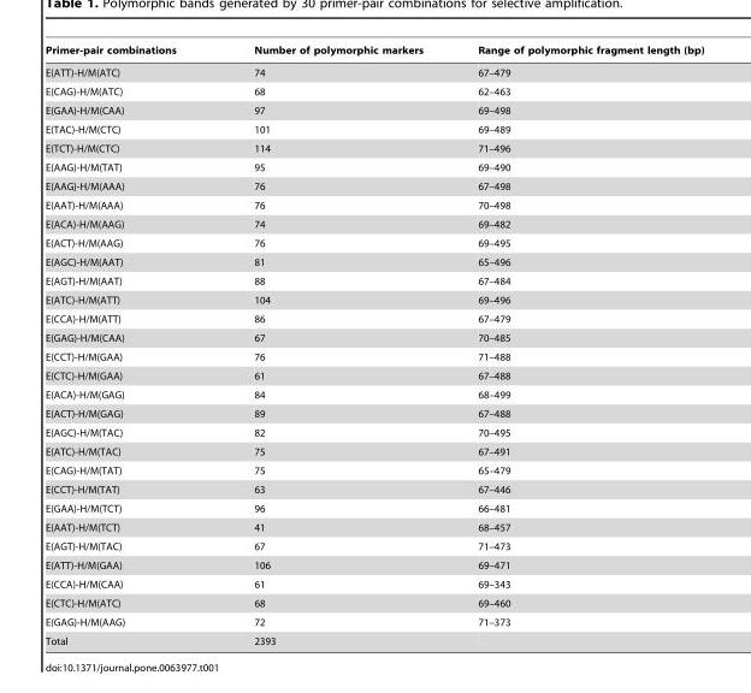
<table><thead><tr><td>Primer-pair combinations</td><td>Number of polymorphic markers</td><td>Range of polymorphic fragment length (bp)</td></tr></thead><tbody><tr><td>E(ATT)-H/M(ATC)</td><td>74</td><td>67–479</td></tr><tr><td>E(CAG)-H/M(ATC)</td><td>68</td><td>62–463</td></tr><tr><td>E(GAA)-H/M(CAA)</td><td>97</td><td>69–498</td></tr><tr><td>E(TAC)-H/M(CTC)</td><td>101</td><td>69–489</td></tr><tr><td>E(TCT)-H/M(CTC)</td><td>114</td><td>71–496</td></tr><tr><td>E(AAG)-H/M(TAT)</td><td>95</td><td>69–490</td></tr><tr><td>E(AAG)-H/M(AAA)</td><td>76</td><td>67–498</td></tr><tr><td>E(AAT)-H/M(AAA)</td><td>76</td><td>70–498</td></tr><tr><td>E(ACA)-H/M(AAG)</td><td>74</td><td>69–482</td></tr><tr><td>E(ACT)-H/M(AAG)</td><td>76</td><td>69–495</td></tr><tr><td>E(AGC)-H/M(AAT)</td><td>81</td><td>65–496</td></tr><tr><td>E(AGT)-H/M(AAT)</td><td>88</td><td>67–484</td></tr><tr><td>E(ATC)-H/M(ATT)</td><td>104</td><td>69–496</td></tr><tr><td>E(CCA)-H/M(ATT)</td><td>86</td><td>67–479</td></tr><tr><td>E(GAG)-H/M(CAA)</td><td>67</td><td>70–485</td></tr><tr><td>E(CCT)-H/M(GAA)</td><td>76</td><td>71–488</td></tr><tr><td>E(CTC)-H/M(GAA)</td><td>61</td><td>67–488</td></tr><tr><td>E(ACA)-H/M(GAG)</td><td>84</td><td>68–499</td></tr><tr><td>E(ACT)-H/M(GAG)</td><td>89</td><td>67–488</td></tr><tr><td>E(AGC)-H/M(TAC)</td><td>82</td><td>70–495</td></tr><tr><td>E(ATC)-H/M(TAC)</td><td>75</td><td>67–491</td></tr><tr><td>E(CAG)-H/M(TAT)</td><td>75</td><td>65–479</td></tr><tr><td>E(CCT)-H/M(TAT)</td><td>63</td><td>67–446</td></tr><tr><td>E(GAA)-H/M(TCT)</td><td>96</td><td>66–481</td></tr><tr><td>E(AAT)-H/M(TCT)</td><td>41</td><td>68–457</td></tr><tr><td>E(AGT)-H/M(TAC)</td><td>67</td><td>71–473</td></tr><tr><td>E(ATT)-H/M(GAA)</td><td>106</td><td>69–471</td></tr><tr><td>E(CCA)-H/M(CAA)</td><td>61</td><td>69–343</td></tr><tr><td>E(CTC)-H/M(ATC)</td><td>68</td><td>69–460</td></tr><tr><td>E(GAG)-H/M(AAG)</td><td>72</td><td>71–373</td></tr><tr><td>Total</td><td>2393</td><td></td></tr></tbody></table>